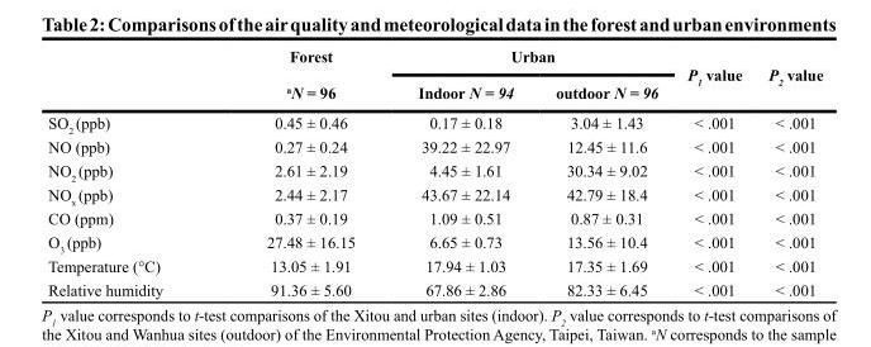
<table><thead><tr><td rowspan="2"></td><td rowspan="2">Forest <sup>a</sup>N = 96</td><td colspan="2">Urban</td><td rowspan="2">P<sub>1</sub> value</td><td rowspan="2">P<sub>2</sub> value</td></tr><tr><td>Indoor N = 94</td><td>outdoor N = 96</td></tr></thead><tbody><tr><td>SO<sub>2</sub> (ppb)</td><td>0.45 ± 0.46</td><td>0.17 ± 0.18</td><td>3.04 ± 1.43</td><td>&lt; .001</td><td>&lt; .001</td></tr><tr><td>NO (ppb)</td><td>0.27 ± 0.24</td><td>39.22 ± 22.97</td><td>12.45 ± 11.6</td><td>&lt; .001</td><td>&lt; .001</td></tr><tr><td>NO<sub>2</sub> (ppb)</td><td>2.61 ± 2.19</td><td>4.45 ± 1.61</td><td>30.34 ± 9.02</td><td>&lt; .001</td><td>&lt; .001</td></tr><tr><td>NO<sub>x</sub> (ppb)</td><td>2.44 ± 2.17</td><td>43.67 ± 22.14</td><td>42.79 ± 18.4</td><td>&lt; .001</td><td>&lt; .001</td></tr><tr><td>CO (ppm)</td><td>0.37 ± 0.19</td><td>1.09 ± 0.51</td><td>0.87 ± 0.31</td><td>&lt; .001</td><td>&lt; .001</td></tr><tr><td>O<sub>3</sub> (ppb)</td><td>27.48 ± 16.15</td><td>6.65 ± 0.73</td><td>13.56 ± 10.4</td><td>&lt; .001</td><td>&lt; .001</td></tr><tr><td>Temperature (°C)</td><td>13.05 ± 1.91</td><td>17.94 ± 1.03</td><td>17.35 ± 1.69</td><td>&lt; .001</td><td>&lt; .001</td></tr><tr><td>Relative humidity</td><td>91.36 ± 5.60</td><td>67.86 ± 2.86</td><td>82.33 ± 6.45</td><td>&lt; .001</td><td>&lt; .001</td></tr></tbody></table>